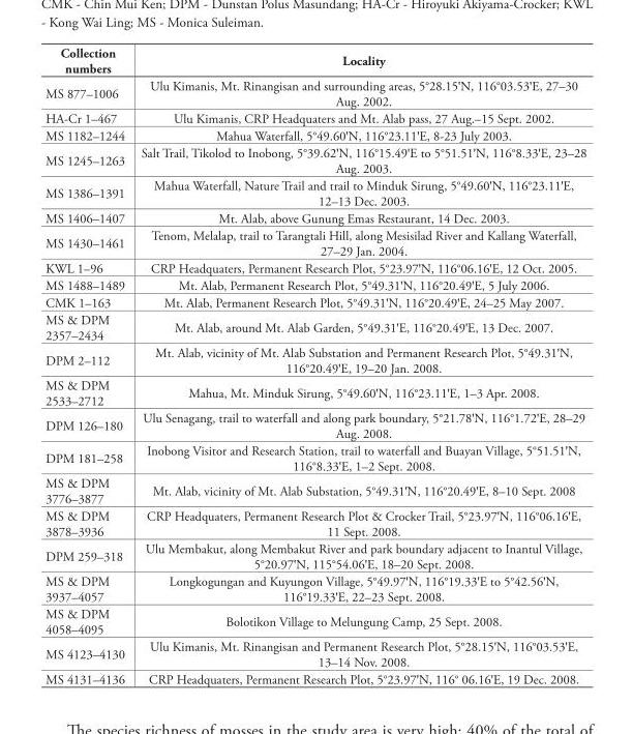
<table><thead><tr><td>Collection numbers</td><td>Locality</td></tr></thead><tbody><tr><td>MS 877–1006</td><td>Ulu Kimanis, Mt. Rinangisan and surrounding areas, 5°28.15&#x27;N, 116°03.53&#x27;E, 27–30 Aug. 2002.</td></tr><tr><td>HA-Cr 1–467</td><td>Ulu Kimanis, CRP Headquaters and Mt. Alab pass, 27 Aug.–15 Sept. 2002.</td></tr><tr><td>MS 1182–1244</td><td>Mahua Waterfall, 5°49.60&#x27;N, 116°23.11&#x27;E, 8-23 July 2003.</td></tr><tr><td>MS 1245–1263</td><td>Salt Trail, Tikolod to Inobong, 5°39.62&#x27;N, 116°15.49&#x27;E to 5°51.51&#x27;N, 116°8.33&#x27;E, 23–28 Aug. 2003.</td></tr><tr><td>MS 1386–1391</td><td>Mahua Waterfall, Nature Trail and trail to Minduk Sirung, 5°49.60&#x27;N, 116°23.11&#x27;E, 12–13 Dec. 2003.</td></tr><tr><td>MS 1406–1407</td><td>Mt. Alab, above Gunung Emas Restaurant, 14 Dec. 2003.</td></tr><tr><td>MS 1430–1461</td><td>Tenom, Melalap, trail to Tarangtali Hill, along Mesisilad River and Kallang Waterfall, 27–29 Jan. 2004.</td></tr><tr><td>KWL 1–96</td><td>CRP Headquaters, Permanent Research Plot, 5°23.97&#x27;N, 116°06.16&#x27;E, 12 Oct. 2005.</td></tr><tr><td>MS 1488–1489</td><td>Mt. Alab, Permanent Research Plot, 5°49.31&#x27;N, 116°20.49&#x27;E, 5 July 2006.</td></tr><tr><td>CMK 1–163</td><td>Mt. Alab, Permanent Research Plot, 5°49.31&#x27;N, 116°20.49&#x27;E, 24–25 May 2007.</td></tr><tr><td>MS &amp; DPM 2357–2434</td><td>Mt. Alab, around Mt. Alab Garden, 5°49.31&#x27;E, 116°20.49&#x27;E, 13 Dec. 2007.</td></tr><tr><td>DPM 2–112</td><td>Mt. Alab, vicinity of Mt. Alab Substation and Permanent Research Plot, 5°49.31&#x27;N, 116°20.49&#x27;E, 19–20 Jan. 2008.</td></tr><tr><td>MS &amp; DPM 2533–2712</td><td>Mahua, Mt. Minduk Sirung, 5°49.60&#x27;N, 116°23.11&#x27;E, 1–3 Apr. 2008.</td></tr><tr><td>DPM 126–180</td><td>Ulu Senagang, trail to waterfall and along park boundary, 5°21.78&#x27;N, 116°1.72&#x27;E, 28–29 Aug. 2008.</td></tr><tr><td>DPM 181–258</td><td>Inobong Visitor and Research Station, trail to waterfall and Buayan Village, 5°51.51&#x27;N, 116°8.33&#x27;E, 1–2 Sept. 2008.</td></tr><tr><td>MS &amp; DPM 3776–3877</td><td>Mt. Alab, vicinity of Mt. Alab Substation, 5°49.31&#x27;N, 116°20.49&#x27;E, 8–10 Sept. 2008</td></tr><tr><td>MS &amp; DPM 3878–3936</td><td>CRP Headquaters, Permanent Research Plot &amp; Crocker Trail, 5°23.97&#x27;N, 116°06.16&#x27;E, 11 Sept. 2008.</td></tr><tr><td>DPM 259–318</td><td>Ulu Membakut, along Membakut River and park boundary adjacent to Inantul Village, 5°20.97&#x27;N, 115°54.06&#x27;E, 18–20 Sept. 2008.</td></tr><tr><td>MS &amp; DPM 3937–4057</td><td>Longkogungan and Kuyungon Village, 5°49.97&#x27;N, 116°19.33&#x27;E to 5°42.56&#x27;N, 116°19.33&#x27;E, 22–23 Sept. 2008.</td></tr><tr><td>MS &amp; DPM 4058–4095</td><td>Bolotikon Village to Melungung Camp, 25 Sept. 2008.</td></tr><tr><td>MS 4123–4130</td><td>Ulu Kimanis, Mt. Rinangisan and Permanent Research Plot, 5°28.15&#x27;N, 116°03.53&#x27;E, 13–14 Nov. 2008.</td></tr><tr><td>MS 4131–4136</td><td>CRP Headquaters, Permanent Research Plot, 5°23.97&#x27;N, 116° 06.16&#x27;E, 19 Dec. 2008.</td></tr></tbody></table>